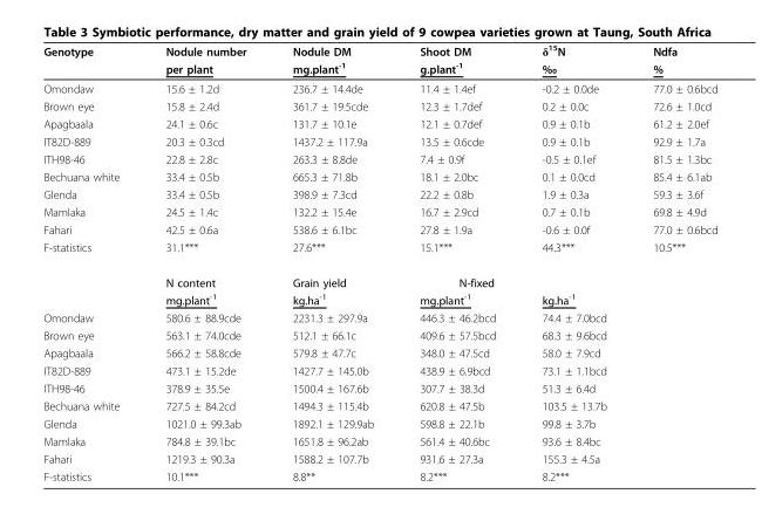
<table><thead><tr><td rowspan="2">Genotype</td><td rowspan="2">Nodule number per plant</td><td rowspan="2">Nodule DM mg.plant-1</td><td rowspan="2">Shoot DM g.plant<sup>-1</sup></td><td rowspan="2">δ<sup>15</sup>N ‰</td><td rowspan="2">Ndfa %</td></tr><tr></tr></thead><tbody><tr><td>Omondaw</td><td>15.6 ± 1.2d</td><td>236.7 ± 14.4de</td><td>11.4 ± 1.4ef</td><td>-0.2 ± 0.0de</td><td>77.0 ± 0.6bcd</td></tr><tr><td>Brown eye</td><td>15.8 ± 2.4d</td><td>361.7 ± 19.5cde</td><td>12.3 ± 1.7def</td><td>0.2 ± 0.0c</td><td>72.6 ± 1.0cd</td></tr><tr><td>Apagbaala</td><td>24.1 ± 0.6c</td><td>131.7 ± 10.1e</td><td>12.1 ± 0.7def</td><td>0.9 ± 0.1b</td><td>61.2 ± 2.0ef</td></tr><tr><td>IT82D-889</td><td>20.3 ± 0.3cd</td><td>1437.2 ± 117.9a</td><td>13.5 ± 0.6cde</td><td>0.9 ± 0.1b</td><td>92.9 ± 1.7a</td></tr><tr><td>ITH98-46</td><td>22.8 ± 2.8c</td><td>263.3 ± 8.8de</td><td>7.4 ± 0.9f</td><td>-0.5 ± 0.1ef</td><td>81.5 ± 1.3bc</td></tr><tr><td>Bechuana white</td><td>33.4 ± 0.5b</td><td>665.3 ± 71.8b</td><td>18.1 ± 2.0bc</td><td>0.1 ± 0.0cd</td><td>85.4 ± 6.1ab</td></tr><tr><td>Glenda</td><td>33.4 ± 0.5b</td><td>398.9 ± 7.3cd</td><td>22.2 ± 0.8b</td><td>1.9 ± 0.3a</td><td>59.3 ± 3.6f</td></tr><tr><td>Mamlaka</td><td>24.5 ± 1.4c</td><td>132.2 ± 15.4e</td><td>16.7 ± 2.9cd</td><td>0.7 ± 0.1b</td><td>69.8 ± 4.9d</td></tr><tr><td>Fahari</td><td>42.5 ± 0.6a</td><td>538.6 ± 6.1bc</td><td>27.8 ± 1.9a</td><td>-0.6 ± 0.0f</td><td>77.0 ± 0.6bcd</td></tr><tr><td rowspan="3">F-statistics</td><td>31.1***</td><td>27.6***</td><td>15.1***</td><td>44.3***</td><td>10.5***</td></tr><tr><td>N content</td><td>Grain yield</td><td>N-fixed</td><td></td><td></td></tr><tr><td>mg.plant-1</td><td>kg.ha<sup>-1</sup></td><td>mg.plant-1</td><td>kg.ha<sup>-1</sup></td><td></td></tr><tr><td>Omondaw</td><td>580.6 ± 88.9cde</td><td>2231.3 ± 297.9a</td><td>446.3 ± 46.2bcd</td><td>74.4 ± 7.0bcd</td><td></td></tr><tr><td>Brown eye</td><td>563.1 ± 74.0cde</td><td>512.1 ± 66.1c</td><td>409.6 ± 57.5bcd</td><td>68.3 ± 9.6bcd</td><td></td></tr><tr><td>Apagbaala</td><td>566.2 ± 58.8cde</td><td>579.8 ± 47.7c</td><td>348.0 ± 47.5cd</td><td>58.0 ± 7.9cd</td><td></td></tr><tr><td>IT82D-889</td><td>473.1 ± 15.2de</td><td>1427.7 ± 145.0b</td><td>438.9 ± 6.9bcd</td><td>73.1 ± 1.1bcd</td><td></td></tr><tr><td>ITH98-46</td><td>378.9 ± 35.5e</td><td>1500.4 ± 167.6b</td><td>307.7 ± 38.3d</td><td>51.3 ± 6.4d</td><td></td></tr><tr><td>Bechuana white</td><td>727.5 ± 84.2cd</td><td>1494.3 ± 115.4b</td><td>620.8 ± 47.5b</td><td>103.5 ± 13.7b</td><td></td></tr><tr><td>Glenda</td><td>1021.0 ± 99.3ab</td><td>1892.1 ± 129.9ab</td><td>598.8 ± 22.1b</td><td>99.8 ± 3.7b</td><td></td></tr><tr><td>Mamlaka</td><td>784.8 ± 39.1bc</td><td>1651.8 ± 96.2ab</td><td>561.4 ± 40.6bc</td><td>93.6 ± 8.4bc</td><td></td></tr><tr><td>Fahari</td><td>1219.3 ± 90.3a</td><td>1588.2 ± 107.7b</td><td>931.6 ± 27.3a</td><td>155.3 ± 4.5a</td><td></td></tr><tr><td>F-statistics</td><td>10.1***</td><td>8.8**</td><td>8.2***</td><td>8.2***</td><td></td></tr></tbody></table>